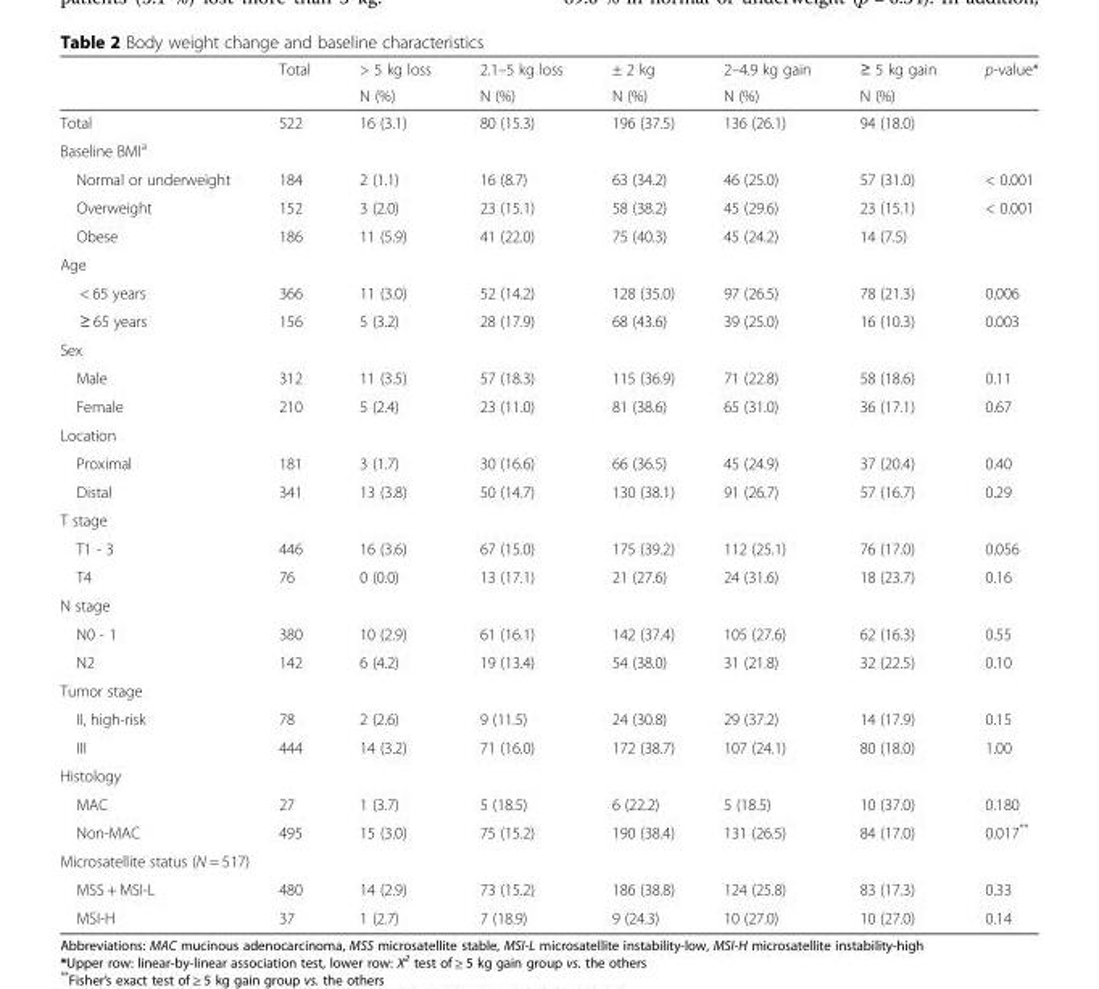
<table><thead><tr><td rowspan="2"></td><td rowspan="2">Total</td><td rowspan="2">&gt; 5 kg loss N (%)</td><td rowspan="2">2.1–5 kg loss N (%)</td><td rowspan="2">± 2 kg N (%)</td><td rowspan="2">2–4.9 kg gain N (%)</td><td rowspan="2">≥ 5 kg gain N (%)</td><td rowspan="2">p-value*</td></tr><tr></tr></thead><tbody><tr><td>Total</td><td>522</td><td>16 (3.1)</td><td>80 (15.3)</td><td>196 (37.5)</td><td>136 (26.1)</td><td>94 (18.0)</td><td></td></tr><tr><td colspan="8">Baseline BMI<sup>a</sup></td></tr><tr><td>Normal or underweight</td><td>184</td><td>2 (1.1)</td><td>16 (8.7)</td><td>63 (34.2)</td><td>46 (25.0)</td><td>57 (31.0)</td><td>&lt; 0.001</td></tr><tr><td>Overweight</td><td>152</td><td>3 (2.0)</td><td>23 (15.1)</td><td>58 (38.2)</td><td>45 (29.6)</td><td>23 (15.1)</td><td>&lt; 0.001</td></tr><tr><td>Obese</td><td>186</td><td>11 (5.9)</td><td>41 (22.0)</td><td>75 (40.3)</td><td>45 (24.2)</td><td>14 (7.5)</td><td></td></tr><tr><td colspan="8">Age</td></tr><tr><td>&lt; 65 years</td><td>366</td><td>11 (3.0)</td><td>52 (14.2)</td><td>128 (35.0)</td><td>97 (26.5)</td><td>78 (21.3)</td><td>0.006</td></tr><tr><td>≥ 65 years</td><td>156</td><td>5 (3.2)</td><td>28 (17.9)</td><td>68 (43.6)</td><td>39 (25.0)</td><td>16 (10.3)</td><td>0.003</td></tr><tr><td colspan="8">Sex</td></tr><tr><td>Male</td><td>312</td><td>11 (3.5)</td><td>57 (18.3)</td><td>115 (36.9)</td><td>71 (22.8)</td><td>58 (18.6)</td><td>0.11</td></tr><tr><td>Female</td><td>210</td><td>5 (2.4)</td><td>23 (11.0)</td><td>81 (38.6)</td><td>65 (31.0)</td><td>36 (17.1)</td><td>0.67</td></tr><tr><td colspan="8">Location</td></tr><tr><td>Proximal</td><td>181</td><td>3 (1.7)</td><td>30 (16.6)</td><td>66 (36.5)</td><td>45 (24.9)</td><td>37 (20.4)</td><td>0.40</td></tr><tr><td>Distal</td><td>341</td><td>13 (3.8)</td><td>50 (14.7)</td><td>130 (38.1)</td><td>91 (26.7)</td><td>57 (16.7)</td><td>0.29</td></tr><tr><td colspan="8">T stage</td></tr><tr><td>T1 - 3</td><td>446</td><td>16 (3.6)</td><td>67 (15.0)</td><td>175 (39.2)</td><td>112 (25.1)</td><td>76 (17.0)</td><td>0.056</td></tr><tr><td>T4</td><td>76</td><td>0 (0.0)</td><td>13 (17.1)</td><td>21 (27.6)</td><td>24 (31.6)</td><td>18 (23.7)</td><td>0.16</td></tr><tr><td colspan="8">N stage</td></tr><tr><td>N0 - 1</td><td>380</td><td>10 (2.9)</td><td>61 (16.1)</td><td>142 (37.4)</td><td>105 (27.6)</td><td>62 (16.3)</td><td>0.55</td></tr><tr><td>N2</td><td>142</td><td>6 (4.2)</td><td>19 (13.4)</td><td>54 (38.0)</td><td>31 (21.8)</td><td>32 (22.5)</td><td>0.10</td></tr><tr><td colspan="8">Tumor stage</td></tr><tr><td>II, high-risk</td><td>78</td><td>2 (2.6)</td><td>9 (11.5)</td><td>24 (30.8)</td><td>29 (37.2)</td><td>14 (17.9)</td><td>0.15</td></tr><tr><td>III</td><td>444</td><td>14 (3.2)</td><td>71 (16.0)</td><td>172 (38.7)</td><td>107 (24.1)</td><td>80 (18.0)</td><td>1.00</td></tr><tr><td colspan="8">Histology</td></tr><tr><td>MAC</td><td>27</td><td>1 (3.7)</td><td>5 (18.5)</td><td>6 (22.2)</td><td>5 (18.5)</td><td>10 (37.0)</td><td>0.180</td></tr><tr><td>Non-MAC</td><td>495</td><td>15 (3.0)</td><td>75 (15.2)</td><td>190 (38.4)</td><td>131 (26.5)</td><td>84 (17.0)</td><td>0.017**</td></tr><tr><td colspan="8">Microsatellite status (N = 517)</td></tr><tr><td>MSS + MSI-L</td><td>480</td><td>14 (2.9)</td><td>73 (15.2)</td><td>186 (38.8)</td><td>124 (25.8)</td><td>83 (17.3)</td><td>0.33</td></tr><tr><td>MSI-H</td><td>37</td><td>1 (2.7)</td><td>7 (18.9)</td><td>9 (24.3)</td><td>10 (27.0)</td><td>10 (27.0)</td><td>0.14</td></tr></tbody></table>